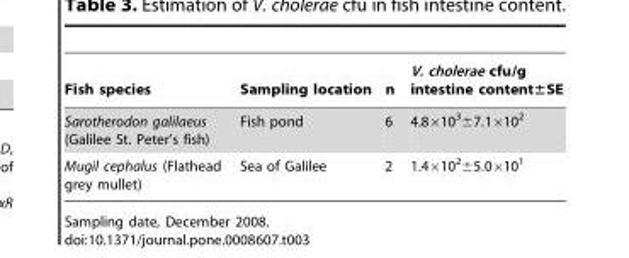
<table><thead><tr><td>Fish species</td><td>Sampling location</td><td>n</td><td>V. cholerae cfu/g intestine content±SE</td></tr></thead><tbody><tr><td>Sarotherodon galilaeus (Galilee St. Peter’s fish)</td><td>Fish pond</td><td>6</td><td>4.8×10<sup>3</sup>±7.1×10<sup>2</sup></td></tr><tr><td>Mugil cephalus (Flathead grey mullet)</td><td>Sea of Galilee</td><td>2</td><td>1.4×10<sup>2</sup>±5.0×10<sup>1</sup></td></tr></tbody></table>